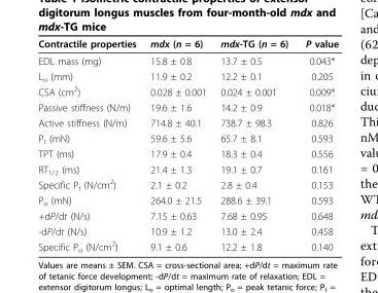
<table><thead><tr><td>Contractile properties</td><td>mdx (n = 6)</td><td>mdx-TG (n = 6)</td><td>P value</td></tr></thead><tbody><tr><td>EDL mass (mg)</td><td>15.8 ± 0.8</td><td>13.7 ± 0.5</td><td>0.043*</td></tr><tr><td>L<sub>o</sub> (mm)</td><td>11.9 ± 0.2</td><td>12.2 ± 0.1</td><td>0.205</td></tr><tr><td>CSA (cm<sup>2</sup>)</td><td>0.028 ± 0.001</td><td>0.024 ± 0.001</td><td>0.009*</td></tr><tr><td>Passive stiffness (N/m)</td><td>19.6 ± 1.6</td><td>14.2 ± 0.9</td><td>0.018*</td></tr><tr><td>Active stiffness (N/m)</td><td>714.8 ± 40.1</td><td>738.7 ± 98.3</td><td>0.826</td></tr><tr><td>P<sub>t</sub> (mN)</td><td>59.6 ± 5.6</td><td>65.7 ± 8.1</td><td>0.593</td></tr><tr><td>TPT (ms)</td><td>17.9 ± 0.4</td><td>18.3 ± 0.4</td><td>0.556</td></tr><tr><td>RT<sub>1/2</sub> (ms)</td><td>21.4 ± 1.3</td><td>19.1 ± 0.7</td><td>0.161</td></tr><tr><td>Specific P<sub>t</sub> (N/cm<sup>2</sup>)</td><td>2.1 ± 0.2</td><td>2.8 ± 0.4</td><td>0.153</td></tr><tr><td>P<sub>o</sub> (mN)</td><td>264.0 ± 21.5</td><td>288.6 ± 39.1</td><td>0.593</td></tr><tr><td>+dP/dt (N/s)</td><td>7.15 ± 0.63</td><td>7.68 ± 0.95</td><td>0.648</td></tr><tr><td>-dP/dt (N/s)</td><td>10.9 ± 1.2</td><td>13.0 ± 2.4</td><td>0.458</td></tr><tr><td>Specific P<sub>o</sub> (N/cm<sup>2</sup>)</td><td>9.1 ± 0.6</td><td>12.2 ± 1.8</td><td>0.140</td></tr></tbody></table>